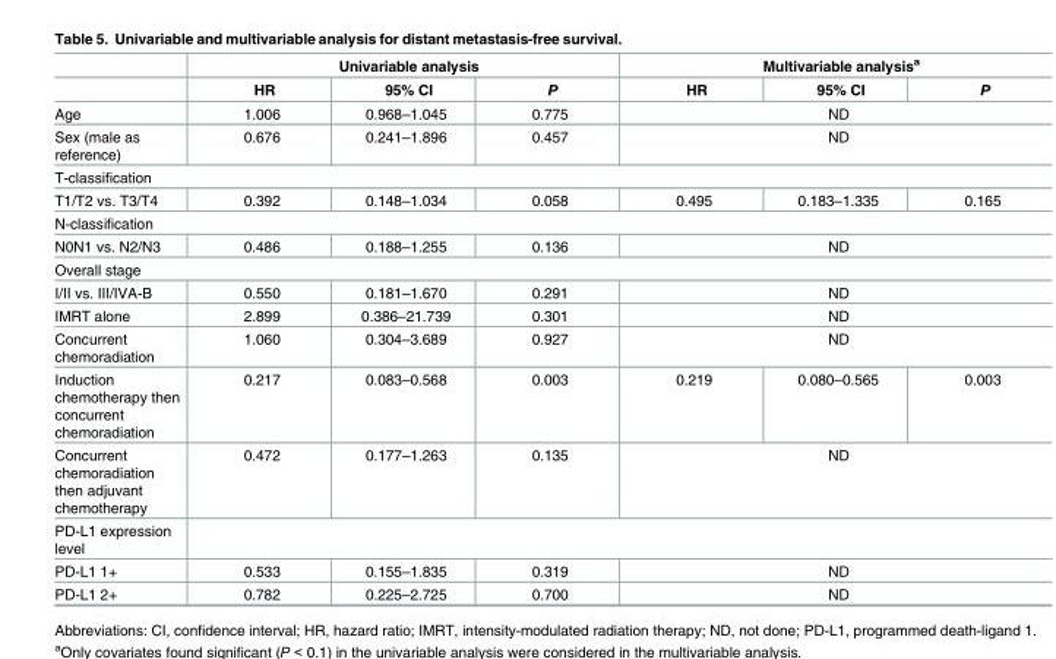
<table><thead><tr><td rowspan="2"></td><td colspan="3">Univariable analysis</td><td colspan="3">Multivariable analysis<sup>a</sup></td></tr><tr><td>HR</td><td>95% CI</td><td>P</td><td>HR</td><td>95% CI</td><td>P</td></tr></thead><tbody><tr><td>Age</td><td>1.006</td><td>0.968–1.045</td><td>0.775</td><td colspan="3">ND</td></tr><tr><td>Sex (male as reference)</td><td>0.676</td><td>0.241–1.896</td><td>0.457</td><td colspan="3">ND</td></tr><tr><td colspan="7">T-classification</td></tr><tr><td>T1/T2 vs. T3/T4</td><td>0.392</td><td>0.148–1.034</td><td>0.058</td><td>0.495</td><td>0.183–1.335</td><td>0.165</td></tr><tr><td colspan="7">N-classification</td></tr><tr><td>N0N1 vs. N2/N3</td><td>0.486</td><td>0.188–1.255</td><td>0.136</td><td colspan="3">ND</td></tr><tr><td colspan="7">Overall stage</td></tr><tr><td>I/II vs. III/IVA-B</td><td>0.550</td><td>0.181–1.670</td><td>0.291</td><td colspan="3">ND</td></tr><tr><td>IMRT alone</td><td>2.899</td><td>0.386–21.739</td><td>0.301</td><td colspan="3">ND</td></tr><tr><td>Concurrent chemoradiation</td><td>1.060</td><td>0.304–3.689</td><td>0.927</td><td colspan="3">ND</td></tr><tr><td>Induction chemotherapy then concurrent chemoradiation</td><td>0.217</td><td>0.083–0.568</td><td>0.003</td><td>0.219</td><td>0.080–0.565</td><td>0.003</td></tr><tr><td>Concurrent chemoradiation then adjuvant chemotherapy</td><td>0.472</td><td>0.177–1.263</td><td>0.135</td><td colspan="3">ND</td></tr><tr><td colspan="7">PD-L1 expression level</td></tr><tr><td>PD-L1 1+</td><td>0.533</td><td>0.155–1.835</td><td>0.319</td><td colspan="3">ND</td></tr><tr><td>PD-L1 2+</td><td>0.782</td><td>0.225–2.725</td><td>0.700</td><td colspan="3">ND</td></tr></tbody></table>